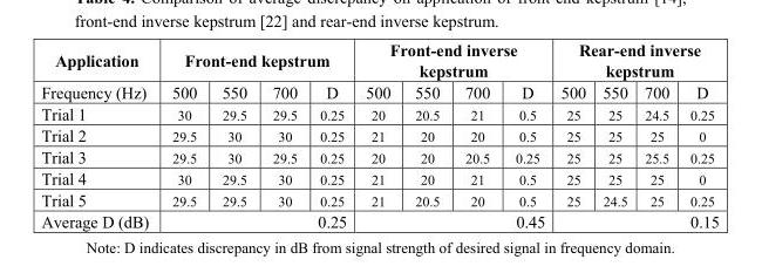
<table><thead><tr><td rowspan="2">Application Frequency (Hz)</td><td colspan="4">Front-end kepstrum</td><td colspan="4">Front-end inverse kepstrum</td><td colspan="4">Rear-end inverse kepstrum</td></tr><tr><td>500</td><td>550</td><td>700</td><td>D</td><td>500</td><td>550</td><td>700</td><td>D</td><td>500</td><td>550</td><td>700</td><td>D</td></tr></thead><tbody><tr><td>Trial 1</td><td>30</td><td>29.5</td><td>29.5</td><td>0.25</td><td>20</td><td>20.5</td><td>21</td><td>0.5</td><td>25</td><td>25</td><td>24.5</td><td>0.25</td></tr><tr><td>Trial 2</td><td>29.5</td><td>30</td><td>30</td><td>0.25</td><td>21</td><td>20</td><td>20</td><td>0.5</td><td>25</td><td>25</td><td>25</td><td>0</td></tr><tr><td>Trial 3</td><td>29.5</td><td>30</td><td>29.5</td><td>0.25</td><td>20</td><td>20</td><td>20.5</td><td>0.25</td><td>25</td><td>25</td><td>25.5</td><td>0.25</td></tr><tr><td>Trial 4</td><td>30</td><td>29.5</td><td>30</td><td>0.25</td><td>21</td><td>20</td><td>21</td><td>0.5</td><td>25</td><td>25</td><td>25</td><td>0</td></tr><tr><td>Trial 5</td><td>29.5</td><td>29.5</td><td>30</td><td>0.25</td><td>21</td><td>20.5</td><td>20</td><td>0.5</td><td>25</td><td>24.5</td><td>25</td><td>0.25</td></tr><tr><td>Average D (dB)</td><td colspan="4">0.25</td><td colspan="4">0.45</td><td colspan="4">0.15</td></tr></tbody></table>